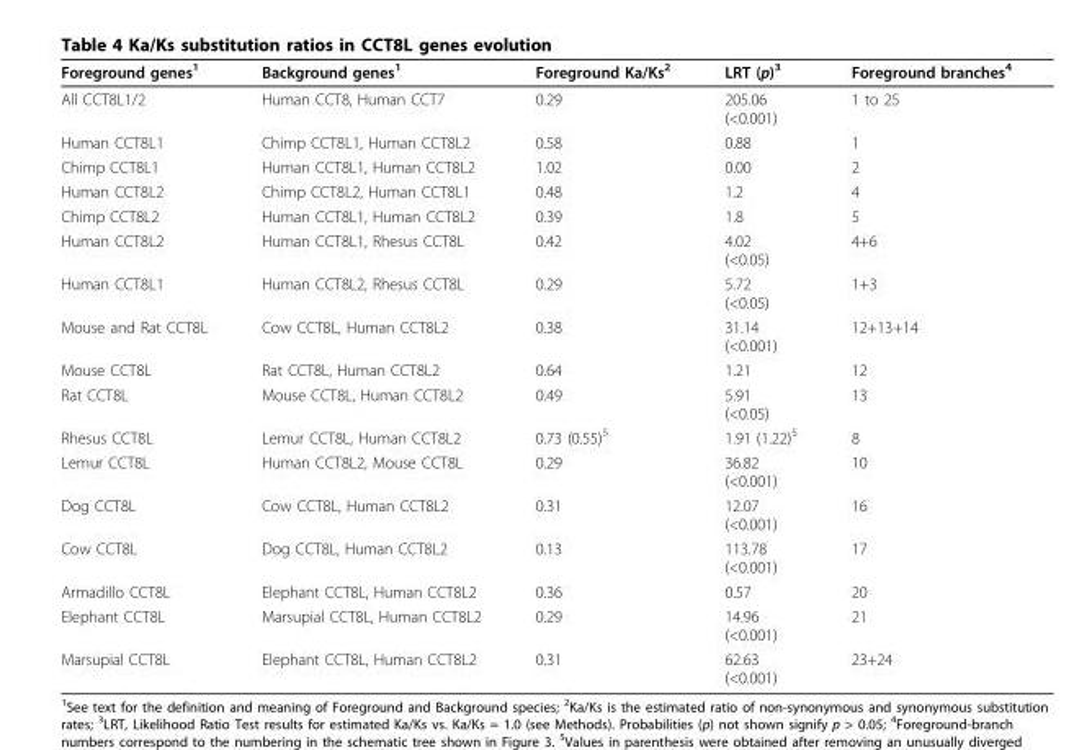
<table><thead><tr><td>Foreground genes<sup>1</sup></td><td>Background genes<sup>1</sup></td><td>Foreground Ka/Ks<sup>2</sup></td><td>LRT (p)<sup>3</sup></td><td>Foreground branches<sup>4</sup></td></tr></thead><tbody><tr><td>All CCT8L1/2</td><td>Human CCT8, Human CCT7</td><td>0.29</td><td>205.06 (&lt;0.001)</td><td>1 to 25</td></tr><tr><td>Human CCT8L1</td><td>Chimp CCT8L1, Human CCT8L2</td><td>0.58</td><td>0.88</td><td>1</td></tr><tr><td>Chimp CCT8L1</td><td>Human CCT8L1, Human CCT8L2</td><td>1.02</td><td>0.00</td><td>2</td></tr><tr><td>Human CCT8L2</td><td>Chimp CCT8L2, Human CCT8L1</td><td>0.48</td><td>1.2</td><td>4</td></tr><tr><td>Chimp CCT8L2</td><td>Human CCT8L1, Human CCT8L2</td><td>0.39</td><td>1.8</td><td>5</td></tr><tr><td>Human CCT8L2</td><td>Human CCT8L1, Rhesus CCT8L</td><td>0.42</td><td>4.02 (&lt;0.05)</td><td>4+6</td></tr><tr><td>Human CCT8L1</td><td>Human CCT8L2, Rhesus CCT8L</td><td>0.29</td><td>5.72 (&lt;0.05)</td><td>1+3</td></tr><tr><td>Mouse and Rat CCT8L</td><td>Cow CCT8L, Human CCT8L2</td><td>0.38</td><td>31.14 (&lt;0.001)</td><td>12+13+14</td></tr><tr><td>Mouse CCT8L</td><td>Rat CCT8L, Human CCT8L2</td><td>0.64</td><td>1.21</td><td>12</td></tr><tr><td>Rat CCT8L</td><td>Mouse CCT8L, Human CCT8L2</td><td>0.49</td><td>5.91 (&lt;0.05)</td><td>13</td></tr><tr><td>Rhesus CCT8L</td><td>Lemur CCT8L, Human CCT8L2</td><td>0.73 (0.55)<sup>5</sup></td><td>1.91 (1.22)<sup>5</sup></td><td>8</td></tr><tr><td>Lemur CCT8L</td><td>Human CCT8L2, Mouse CCT8L</td><td>0.29</td><td>36.82 (&lt;0.001)</td><td>10</td></tr><tr><td>Dog CCT8L</td><td>Cow CCT8L, Human CCT8L2</td><td>0.31</td><td>12.07 (&lt;0.001)</td><td>16</td></tr><tr><td>Cow CCT8L</td><td>Dog CCT8L, Human CCT8L2</td><td>0.13</td><td>113.78 (&lt;0.001)</td><td>17</td></tr><tr><td>Armadillo CCT8L</td><td>Elephant CCT8L, Human CCT8L2</td><td>0.36</td><td>0.57</td><td>20</td></tr><tr><td>Elephant CCT8L</td><td>Marsupial CCT8L, Human CCT8L2</td><td>0.29</td><td>14.96 (&lt;0.001)</td><td>21</td></tr><tr><td>Marsupial CCT8L</td><td>Elephant CCT8L, Human CCT8L2</td><td>0.31</td><td>62.63 (&lt;0.001)</td><td>23+24</td></tr></tbody></table>